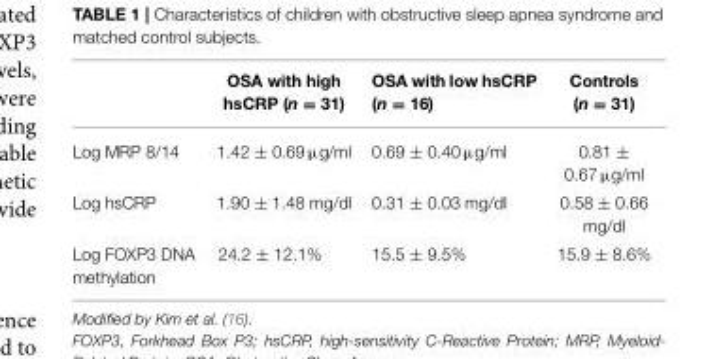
<table><thead><tr><td></td><td>OSA with high hsCRP (n = 31)</td><td>OSA with low hsCRP (n = 16)</td><td>Controls (n = 31)</td></tr></thead><tbody><tr><td>Log MRP 8/14</td><td>1.42 ± 0.69 µg/ml</td><td>0.69 ± 0.40 µg/ml</td><td>0.81 ± 0.67 µg/ml</td></tr><tr><td>Log hsCRP</td><td>1.90 ± 1.48 mg/dl</td><td>0.31 ± 0.03 mg/dl</td><td>0.58 ± 0.66 mg/dl</td></tr><tr><td>Log FOXP3 DNA methylation</td><td>24.2 ± 12.1%</td><td>15.5 ± 9.5%</td><td>15.9 ± 8.6%</td></tr></tbody></table>